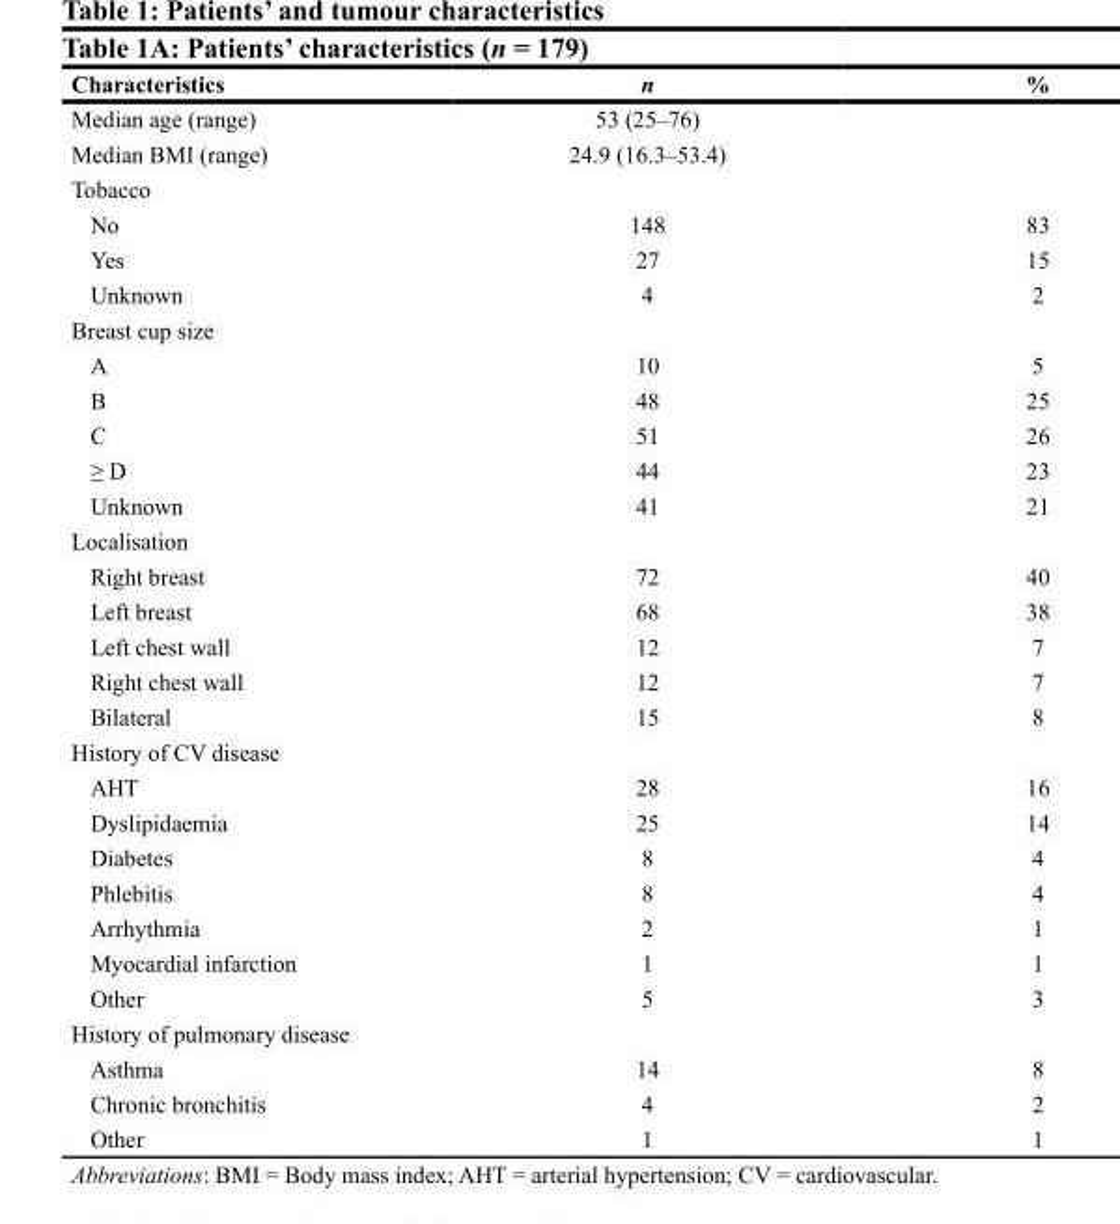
<table><thead><tr><td>Characteristics</td><td>n</td><td>%</td></tr></thead><tbody><tr><td>Median age (range)</td><td>53 (25–76)</td><td></td></tr><tr><td>Median BMI (range)</td><td>24.9 (16.3–53.4)</td><td></td></tr><tr><td colspan="3">Tobacco</td></tr><tr><td>No</td><td>148</td><td>83</td></tr><tr><td>Yes</td><td>27</td><td>15</td></tr><tr><td>Unknown</td><td>4</td><td>2</td></tr><tr><td colspan="3">Breast cup size</td></tr><tr><td>A</td><td>10</td><td>5</td></tr><tr><td>B</td><td>48</td><td>25</td></tr><tr><td>C</td><td>51</td><td>26</td></tr><tr><td>≥ D</td><td>44</td><td>23</td></tr><tr><td>Unknown</td><td>41</td><td>21</td></tr><tr><td colspan="3">Localisation</td></tr><tr><td>Right breast</td><td>72</td><td>40</td></tr><tr><td>Left breast</td><td>68</td><td>38</td></tr><tr><td>Left chest wall</td><td>12</td><td>7</td></tr><tr><td>Right chest wall</td><td>12</td><td>7</td></tr><tr><td>Bilateral</td><td>15</td><td>8</td></tr><tr><td colspan="3">History of CV disease</td></tr><tr><td>AHT</td><td>28</td><td>16</td></tr><tr><td>Dyslipidaemia</td><td>25</td><td>14</td></tr><tr><td>Diabetes</td><td>8</td><td>4</td></tr><tr><td>Phlebitis</td><td>8</td><td>4</td></tr><tr><td>Arrhythmia</td><td>2</td><td>1</td></tr><tr><td>Myocardial infarction</td><td>1</td><td>1</td></tr><tr><td>Other</td><td>5</td><td>3</td></tr><tr><td colspan="3">History of pulmonary disease</td></tr><tr><td>Asthma</td><td>14</td><td>8</td></tr><tr><td>Chronic bronchitis</td><td>4</td><td>2</td></tr><tr><td>Other</td><td>1</td><td>1</td></tr></tbody></table>